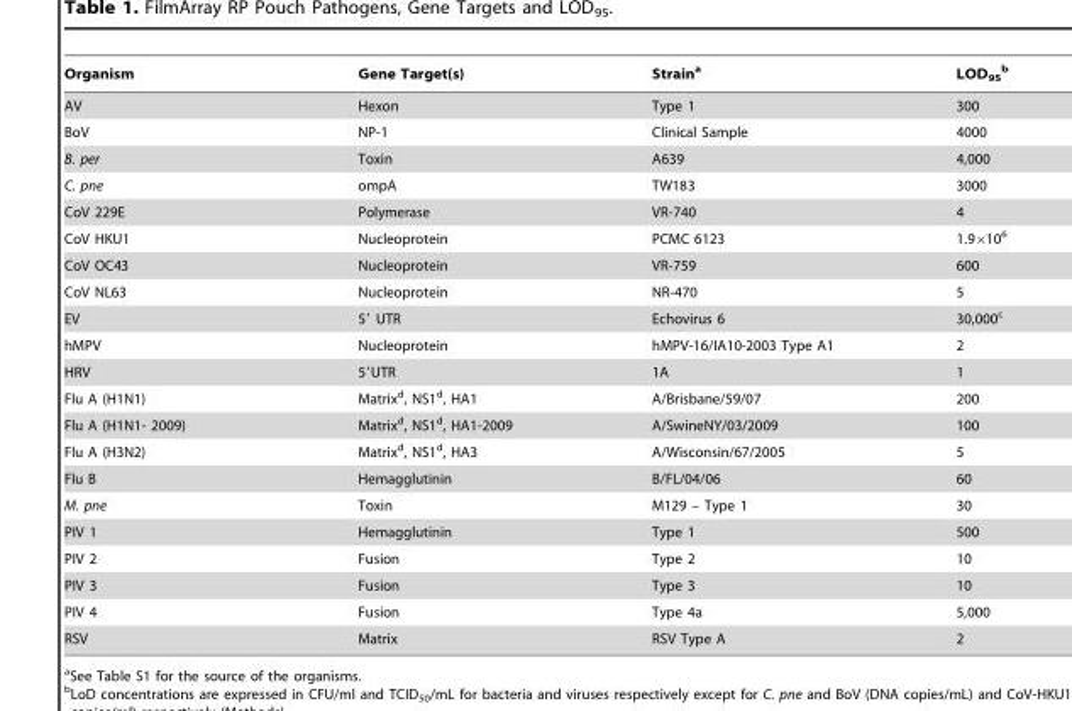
<table><thead><tr><td>Organism</td><td>Gene Target(s)</td><td>Strain<sup>a</sup></td><td>LOD<sub>95</sub> <sup>b</sup></td></tr></thead><tbody><tr><td>AV</td><td>Hexon</td><td>Type 1</td><td>300</td></tr><tr><td>BoV</td><td>NP-1</td><td>Clinical Sample</td><td>4000</td></tr><tr><td>B. per</td><td>Toxin</td><td>A639</td><td>4,000</td></tr><tr><td>C. pne</td><td>ompA</td><td>TW183</td><td>3000</td></tr><tr><td>CoV 229E</td><td>Polymerase</td><td>VR-740</td><td>4</td></tr><tr><td>CoV HKU1</td><td>Nucleoprotein</td><td>PCMC 6123</td><td>1.9×10<sup>6</sup></td></tr><tr><td>CoV OC43</td><td>Nucleoprotein</td><td>VR-759</td><td>600</td></tr><tr><td>CoV NL63</td><td>Nucleoprotein</td><td>NR-470</td><td>5</td></tr><tr><td>EV</td><td>5′ UTR</td><td>Echovirus 6</td><td>30,000<sup>c</sup></td></tr><tr><td>hMPV</td><td>Nucleoprotein</td><td>hMPV-16/IA10-2003 Type A1</td><td>2</td></tr><tr><td>HRV</td><td>5′UTR</td><td>1A</td><td>1</td></tr><tr><td>Flu A (H1N1)</td><td>Matrix<sup>d</sup>, NS1<sup>d</sup>, HA1</td><td>A/Brisbane/59/07</td><td>200</td></tr><tr><td>Flu A (H1N1- 2009)</td><td>Matrix<sup>d</sup>, NS1<sup>d</sup>, HA1-2009</td><td>A/SwineNY/03/2009</td><td>100</td></tr><tr><td>Flu A (H3N2)</td><td>Matrix<sup>d</sup>, NS1<sup>d</sup>, HA3</td><td>A/Wisconsin/67/2005</td><td>5</td></tr><tr><td>Flu B</td><td>Hemagglutinin</td><td>B/FL/04/06</td><td>60</td></tr><tr><td>M. pne</td><td>Toxin</td><td>M129 – Type 1</td><td>30</td></tr><tr><td>PIV 1</td><td>Hemagglutinin</td><td>Type 1</td><td>500</td></tr><tr><td>PIV 2</td><td>Fusion</td><td>Type 2</td><td>10</td></tr><tr><td>PIV 3</td><td>Fusion</td><td>Type 3</td><td>10</td></tr><tr><td>PIV 4</td><td>Fusion</td><td>Type 4a</td><td>5,000</td></tr><tr><td>RSV</td><td>Matrix</td><td>RSV Type A</td><td>2</td></tr></tbody></table>